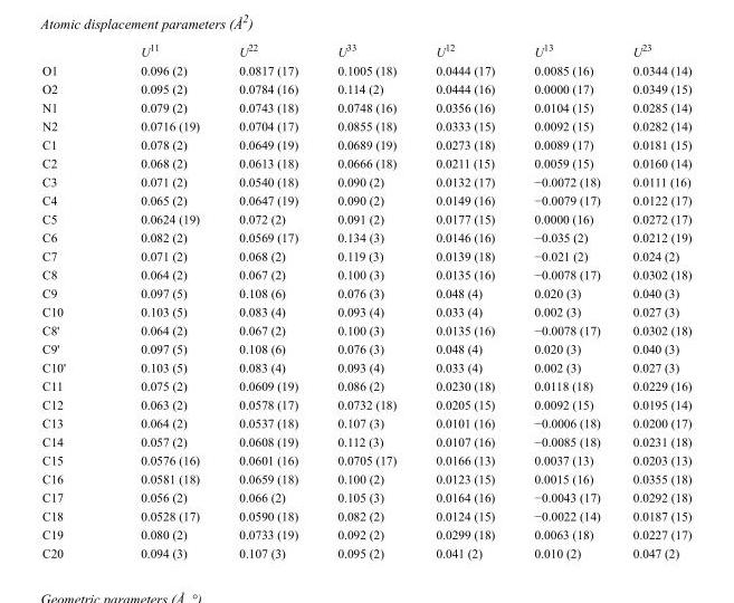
<table><thead><tr><td></td><td>U<sup>11</sup></td><td>U<sup>22</sup></td><td>U<sup>33</sup></td><td>U<sup>12</sup></td><td>U<sup>13</sup></td><td>U<sup>23</sup></td></tr></thead><tbody><tr><td>O1</td><td>0.096 (2)</td><td>0.0817 (17)</td><td>0.1005 (18)</td><td>0.0444 (17)</td><td>0.0085 (16)</td><td>0.0344 (14)</td></tr><tr><td>O2</td><td>0.095 (2)</td><td>0.0784 (16)</td><td>0.114 (2)</td><td>0.0444 (16)</td><td>0.0000 (17)</td><td>0.0349 (15)</td></tr><tr><td>N1</td><td>0.079 (2)</td><td>0.0743 (18)</td><td>0.0748 (16)</td><td>0.0356 (16)</td><td>0.0104 (15)</td><td>0.0285 (14)</td></tr><tr><td>N2</td><td>0.0716 (19)</td><td>0.0704 (17)</td><td>0.0855 (18)</td><td>0.0333 (15)</td><td>0.0092 (15)</td><td>0.0282 (14)</td></tr><tr><td>C1</td><td>0.078 (2)</td><td>0.0649 (19)</td><td>0.0689 (19)</td><td>0.0273 (18)</td><td>0.0089 (17)</td><td>0.0181 (15)</td></tr><tr><td>C2</td><td>0.068 (2)</td><td>0.0613 (18)</td><td>0.0666 (18)</td><td>0.0211 (15)</td><td>0.0059 (15)</td><td>0.0160 (14)</td></tr><tr><td>C3</td><td>0.071 (2)</td><td>0.0540 (18)</td><td>0.090 (2)</td><td>0.0132 (17)</td><td>−0.0072 (18)</td><td>0.0111 (16)</td></tr><tr><td>C4</td><td>0.065 (2)</td><td>0.0647 (19)</td><td>0.090 (2)</td><td>0.0149 (16)</td><td>−0.0079 (17)</td><td>0.0122 (17)</td></tr><tr><td>C5</td><td>0.0624 (19)</td><td>0.072 (2)</td><td>0.091 (2)</td><td>0.0177 (15)</td><td>0.0000 (16)</td><td>0.0272 (17)</td></tr><tr><td>C6</td><td>0.082 (2)</td><td>0.0569 (17)</td><td>0.134 (3)</td><td>0.0146 (16)</td><td>−0.035 (2)</td><td>0.0212 (19)</td></tr><tr><td>C7</td><td>0.071 (2)</td><td>0.068 (2)</td><td>0.119 (3)</td><td>0.0139 (18)</td><td>−0.021 (2)</td><td>0.024 (2)</td></tr><tr><td>C8</td><td>0.064 (2)</td><td>0.067 (2)</td><td>0.100 (3)</td><td>0.0135 (16)</td><td>−0.0078 (17)</td><td>0.0302 (18)</td></tr><tr><td>C9</td><td>0.097 (5)</td><td>0.108 (6)</td><td>0.076 (3)</td><td>0.048 (4)</td><td>0.020 (3)</td><td>0.040 (3)</td></tr><tr><td>C10</td><td>0.103 (5)</td><td>0.083 (4)</td><td>0.093 (4)</td><td>0.033 (4)</td><td>0.002 (3)</td><td>0.027 (3)</td></tr><tr><td>C8&#x27;</td><td>0.064 (2)</td><td>0.067 (2)</td><td>0.100 (3)</td><td>0.0135 (16)</td><td>−0.0078 (17)</td><td>0.0302 (18)</td></tr><tr><td>C9&#x27;</td><td>0.097 (5)</td><td>0.108 (6)</td><td>0.076 (3)</td><td>0.048 (4)</td><td>0.020 (3)</td><td>0.040 (3)</td></tr><tr><td>C10&#x27;</td><td>0.103 (5)</td><td>0.083 (4)</td><td>0.093 (4)</td><td>0.033 (4)</td><td>0.002 (3)</td><td>0.027 (3)</td></tr><tr><td>C11</td><td>0.075 (2)</td><td>0.0609 (19)</td><td>0.086 (2)</td><td>0.0230 (18)</td><td>0.0118 (18)</td><td>0.0229 (16)</td></tr><tr><td>C12</td><td>0.063 (2)</td><td>0.0578 (17)</td><td>0.0732 (18)</td><td>0.0205 (15)</td><td>0.0092 (15)</td><td>0.0195 (14)</td></tr><tr><td>C13</td><td>0.064 (2)</td><td>0.0537 (18)</td><td>0.107 (3)</td><td>0.0101 (16)</td><td>−0.0006 (18)</td><td>0.0200 (17)</td></tr><tr><td>C14</td><td>0.057 (2)</td><td>0.0608 (19)</td><td>0.112 (3)</td><td>0.0107 (16)</td><td>−0.0085 (18)</td><td>0.0231 (18)</td></tr><tr><td>C15</td><td>0.0576 (16)</td><td>0.0601 (16)</td><td>0.0705 (17)</td><td>0.0166 (13)</td><td>0.0037 (13)</td><td>0.0203 (13)</td></tr><tr><td>C16</td><td>0.0581 (18)</td><td>0.0659 (18)</td><td>0.100 (2)</td><td>0.0123 (15)</td><td>0.0015 (16)</td><td>0.0355 (18)</td></tr><tr><td>C17</td><td>0.056 (2)</td><td>0.066 (2)</td><td>0.105 (3)</td><td>0.0164 (16)</td><td>−0.0043 (17)</td><td>0.0292 (18)</td></tr><tr><td>C18</td><td>0.0528 (17)</td><td>0.0590 (18)</td><td>0.082 (2)</td><td>0.0124 (15)</td><td>−0.0022 (14)</td><td>0.0187 (15)</td></tr><tr><td>C19</td><td>0.080 (2)</td><td>0.0733 (19)</td><td>0.092 (2)</td><td>0.0299 (18)</td><td>0.0063 (18)</td><td>0.0227 (17)</td></tr><tr><td>C20</td><td>0.094 (3)</td><td>0.107 (3)</td><td>0.095 (2)</td><td>0.041 (2)</td><td>0.010 (2)</td><td>0.047 (2)</td></tr></tbody></table>